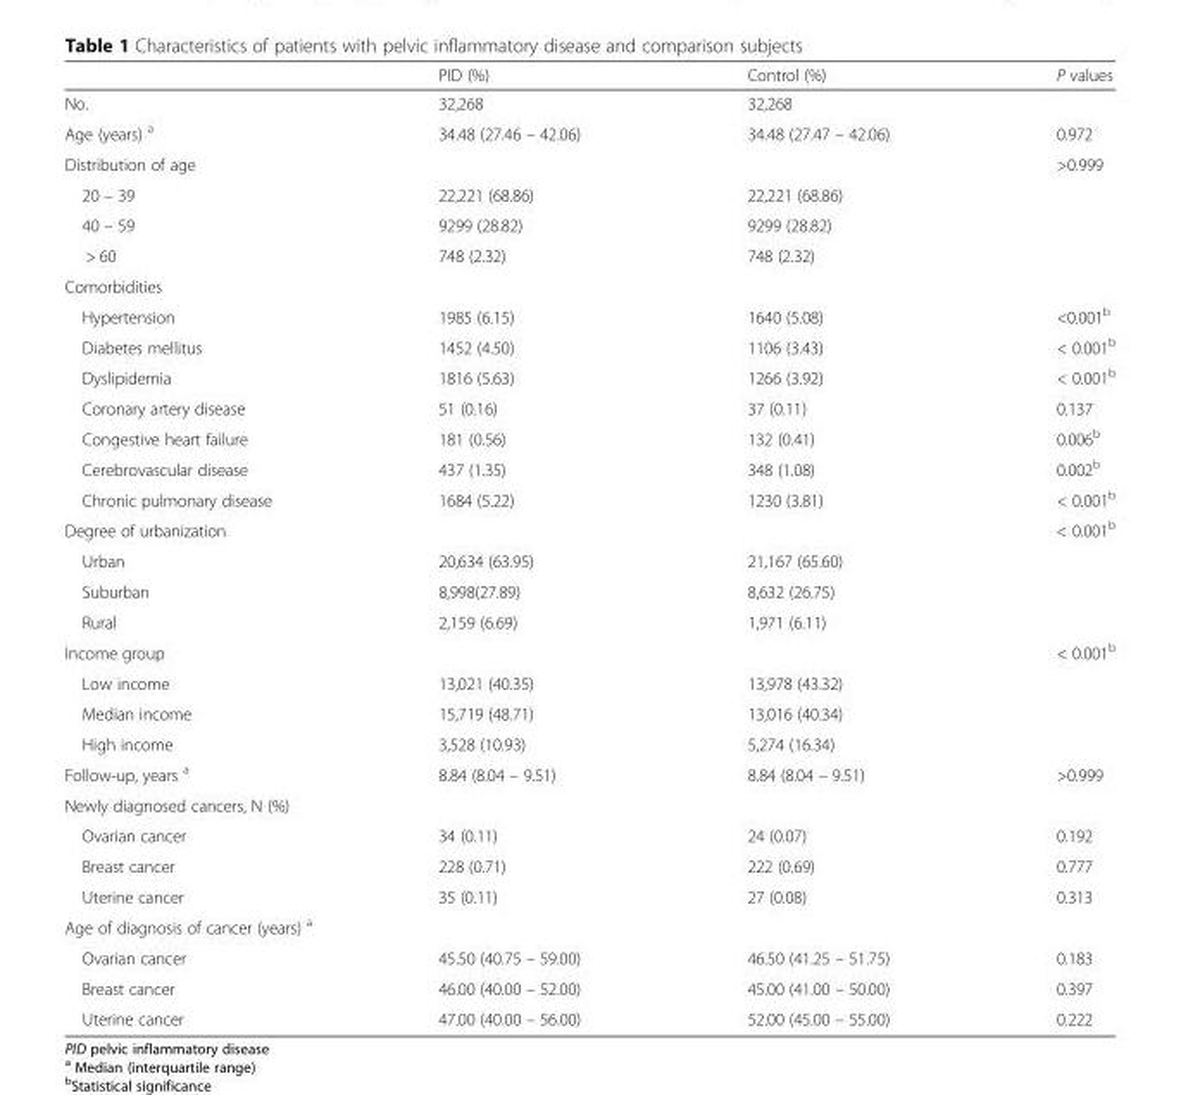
<table><thead><tr><td></td><td>PID (%)</td><td>Control (%)</td><td>P values</td></tr></thead><tbody><tr><td>No.</td><td>32,268</td><td>32,268</td><td></td></tr><tr><td>Age (years) <sup>a</sup></td><td>34.48 (27.46 – 42.06)</td><td>34.48 (27.47 – 42.06)</td><td>0.972</td></tr><tr><td>Distribution of age</td><td></td><td></td><td>&gt;0.999</td></tr><tr><td>20 – 39</td><td>22,221 (68.86)</td><td>22,221 (68.86)</td><td></td></tr><tr><td>40 – 59</td><td>9299 (28.82)</td><td>9299 (28.82)</td><td></td></tr><tr><td>&gt; 60</td><td>748 (2.32)</td><td>748 (2.32)</td><td></td></tr><tr><td colspan="4">Comorbidities</td></tr><tr><td>Hypertension</td><td>1985 (6.15)</td><td>1640 (5.08)</td><td>&lt;0.001<sup>b</sup></td></tr><tr><td>Diabetes mellitus</td><td>1452 (4.50)</td><td>1106 (3.43)</td><td>&lt; 0.001<sup>b</sup></td></tr><tr><td>Dyslipidemia</td><td>1816 (5.63)</td><td>1266 (3.92)</td><td>&lt; 0.001<sup>b</sup></td></tr><tr><td>Coronary artery disease</td><td>51 (0.16)</td><td>37 (0.11)</td><td>0.137</td></tr><tr><td>Congestive heart failure</td><td>181 (0.56)</td><td>132 (0.41)</td><td>0.006<sup>b</sup></td></tr><tr><td>Cerebrovascular disease</td><td>437 (1.35)</td><td>348 (1.08)</td><td>0.002<sup>b</sup></td></tr><tr><td>Chronic pulmonary disease</td><td>1684 (5.22)</td><td>1230 (3.81)</td><td>&lt; 0.001<sup>b</sup></td></tr><tr><td>Degree of urbanization</td><td></td><td></td><td>&lt; 0.001<sup>b</sup></td></tr><tr><td>Urban</td><td>20,634 (63.95)</td><td>21,167 (65.60)</td><td></td></tr><tr><td>Suburban</td><td>8,998(27.89)</td><td>8,632 (26.75)</td><td></td></tr><tr><td>Rural</td><td>2,159 (6.69)</td><td>1,971 (6.11)</td><td></td></tr><tr><td>Income group</td><td></td><td></td><td>&lt; 0.001<sup>b</sup></td></tr><tr><td>Low income</td><td>13,021 (40.35)</td><td>13,978 (43.32)</td><td></td></tr><tr><td>Median income</td><td>15,719 (48.71)</td><td>13,016 (40.34)</td><td></td></tr><tr><td>High income</td><td>3,528 (10.93)</td><td>5,274 (16.34)</td><td></td></tr><tr><td>Follow-up, years <sup>a</sup></td><td>8.84 (8.04 – 9.51)</td><td>8.84 (8.04 – 9.51)</td><td>&gt;0.999</td></tr><tr><td colspan="4">Newly diagnosed cancers, N (%)</td></tr><tr><td>Ovarian cancer</td><td>34 (0.11)</td><td>24 (0.07)</td><td>0.192</td></tr><tr><td>Breast cancer</td><td>228 (0.71)</td><td>222 (0.69)</td><td>0.777</td></tr><tr><td>Uterine cancer</td><td>35 (0.11)</td><td>27 (0.08)</td><td>0.313</td></tr><tr><td colspan="4">Age of diagnosis of cancer (years) <sup>a</sup></td></tr><tr><td>Ovarian cancer</td><td>45.50 (40.75 – 59.00)</td><td>46.50 (41.25 – 51.75)</td><td>0.183</td></tr><tr><td>Breast cancer</td><td>46.00 (40.00 – 52.00)</td><td>45.00 (41.00 – 50.00)</td><td>0.397</td></tr><tr><td>Uterine cancer</td><td>47.00 (40.00 – 56.00)</td><td>52.00 (45.00 – 55.00)</td><td>0.222</td></tr></tbody></table>